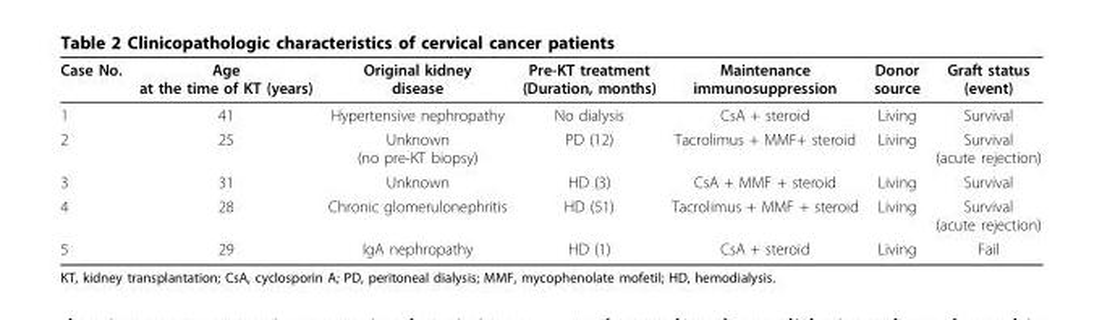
<table><thead><tr><td>Case No.</td><td>Age at the time of KT (years)</td><td>Original kidney disease</td><td>Pre-KT treatment (Duration, months)</td><td>Maintenance immunosuppression</td><td>Donor source</td><td>Graft status (event)</td></tr></thead><tbody><tr><td>1</td><td>41</td><td>Hypertensive nephropathy</td><td>No dialysis</td><td>CsA + steroid</td><td>Living</td><td>Survival</td></tr><tr><td>2</td><td>25</td><td>Unknown (no pre-KT biopsy)</td><td>PD (12)</td><td>Tacrolimus + MMF+ steroid</td><td>Living</td><td>Survival (acute rejection)</td></tr><tr><td>3</td><td>31</td><td>Unknown</td><td>HD (3)</td><td>CsA + MMF + steroid</td><td>Living</td><td>Survival</td></tr><tr><td>4</td><td>28</td><td>Chronic glomerulonephritis</td><td>HD (51)</td><td>Tacrolimus + MMF + steroid</td><td>Living</td><td>Survival (acute rejection)</td></tr><tr><td>5</td><td>29</td><td>IgA nephropathy</td><td>HD (1)</td><td>CsA + steroid</td><td>Living</td><td>Fail</td></tr></tbody></table>